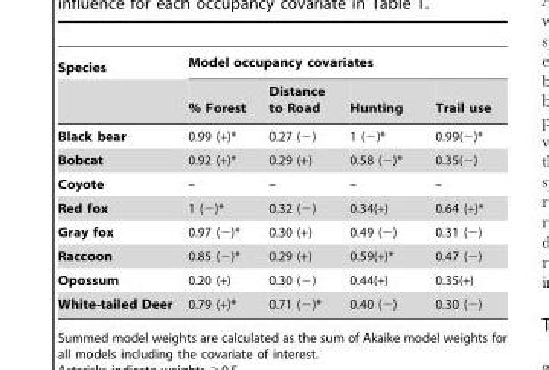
<table><thead><tr><td rowspan="2">Species</td><td colspan="4">Model occupancy covariates</td></tr><tr><td>% Forest</td><td>Distance to Road</td><td>Hunting</td><td>Trail use</td></tr></thead><tbody><tr><td>Black bear</td><td>0.99 (+)*</td><td>0.27 (−)</td><td>1 (−)*</td><td>0.99(−)*</td></tr><tr><td>Bobcat</td><td>0.92 (+)*</td><td>0.29 (+)</td><td>0.58 (−)*</td><td>0.35(−)</td></tr><tr><td>Coyote</td><td>–</td><td>–</td><td>–</td><td>–</td></tr><tr><td>Red fox</td><td>1 (−)*</td><td>0.32 (−)</td><td>0.34(+)</td><td>0.64 (+)*</td></tr><tr><td>Gray fox</td><td>0.97 (−)*</td><td>0.30 (+)</td><td>0.49 (−)</td><td>0.31 (−)</td></tr><tr><td>Raccoon</td><td>0.85 (−)*</td><td>0.29 (+)</td><td>0.59(+)*</td><td>0.47 (−)</td></tr><tr><td>Opossum</td><td>0.20 (+)</td><td>0.30 (−)</td><td>0.44(+)</td><td>0.35(+)</td></tr><tr><td>White-tailed Deer</td><td>0.79 (+)*</td><td>0.71 (−)*</td><td>0.40 (−)</td><td>0.30 (−)</td></tr></tbody></table>